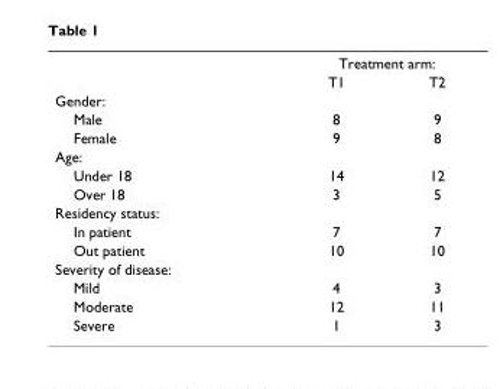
<table><thead><tr><td rowspan="2"></td><td colspan="2">Treatment arm:</td></tr><tr><td>T1</td><td>T2</td></tr></thead><tbody><tr><td colspan="3">Gender:</td></tr><tr><td>Male</td><td>8</td><td>9</td></tr><tr><td>Female</td><td>9</td><td>8</td></tr><tr><td colspan="3">Age:</td></tr><tr><td>Under 18</td><td>14</td><td>12</td></tr><tr><td>Over 18</td><td>3</td><td>5</td></tr><tr><td colspan="3">Residency status:</td></tr><tr><td>In patient</td><td>7</td><td>7</td></tr><tr><td>Out patient</td><td>10</td><td>10</td></tr><tr><td colspan="3">Severity of disease:</td></tr><tr><td>Mild</td><td>4</td><td>3</td></tr><tr><td>Moderate</td><td>12</td><td>11</td></tr><tr><td>Severe</td><td>1</td><td>3</td></tr></tbody></table>